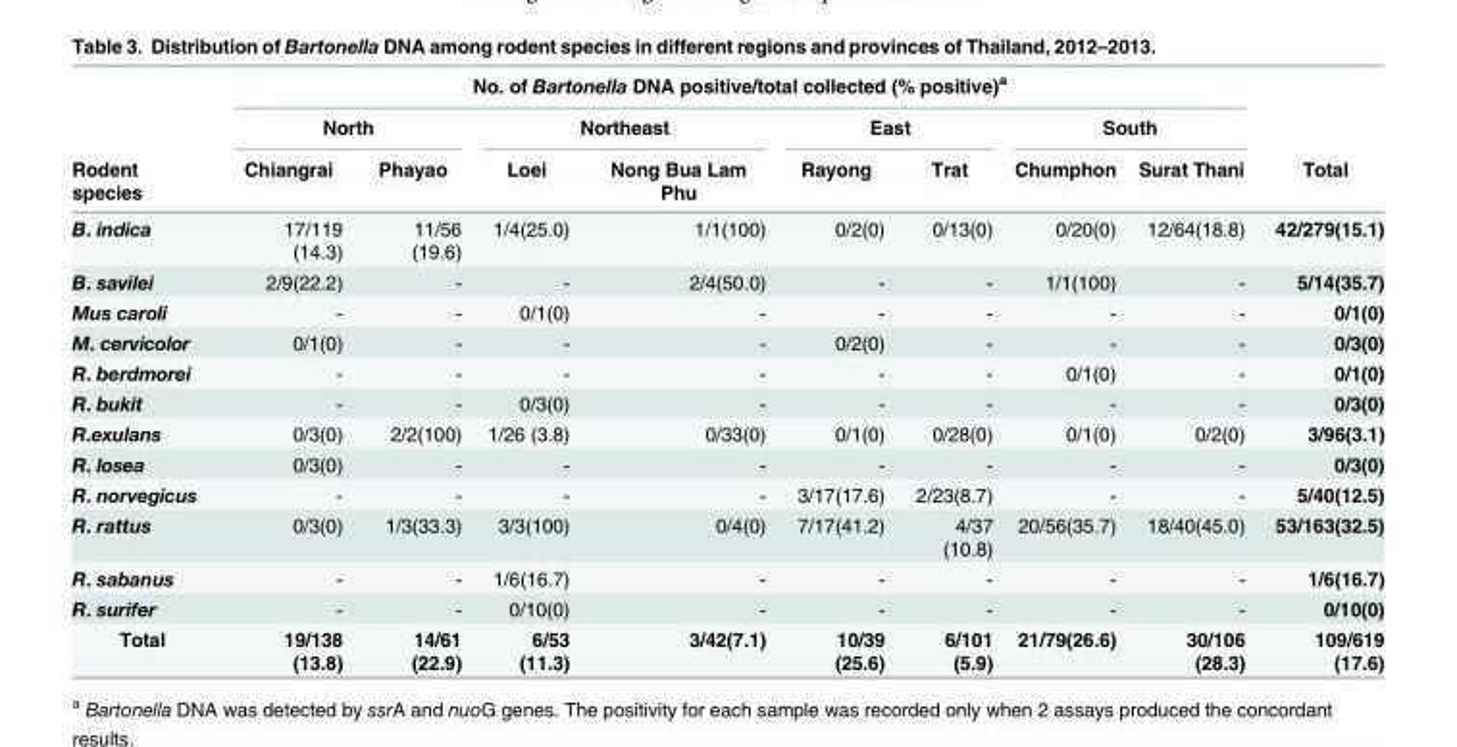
<table><thead><tr><td rowspan="3">Rodent species</td><td colspan="8">No. of Bartonella DNA positive/total collected (% positive)<sup>a</sup></td><td rowspan="3">Total</td></tr><tr><td colspan="2">North</td><td colspan="2">Northeast</td><td colspan="2">East</td><td colspan="2">South</td></tr><tr><td>Chiangrai</td><td>Phayao</td><td>Loei</td><td>Nong Bua Lam Phu</td><td>Rayong</td><td>Trat</td><td>Chumphon</td><td>Surat Thani</td></tr></thead><tbody><tr><td>B. indica</td><td>17/119 (14.3)</td><td>11/56 (19.6)</td><td>1/4(25.0)</td><td>1/1(100)</td><td>0/2(0)</td><td>0/13(0)</td><td>0/20(0)</td><td>12/64(18.8)</td><td>42/279(15.1)</td></tr><tr><td>B. savilei</td><td>2/9(22.2)</td><td>-</td><td>-</td><td>2/4(50.0)</td><td>-</td><td>-</td><td>1/1(100)</td><td>-</td><td>5/14(35.7)</td></tr><tr><td>Mus caroli</td><td>-</td><td>-</td><td>0/1(0)</td><td>-</td><td>-</td><td>-</td><td>-</td><td>-</td><td>0/1(0)</td></tr><tr><td>M. cervicolor</td><td>0/1(0)</td><td>-</td><td>-</td><td>-</td><td>0/2(0)</td><td>-</td><td>-</td><td>-</td><td>0/3(0)</td></tr><tr><td>R. berdmorei</td><td>-</td><td>-</td><td>-</td><td>-</td><td>-</td><td>-</td><td>0/1(0)</td><td>-</td><td>0/1(0)</td></tr><tr><td>R. bukit</td><td>-</td><td>-</td><td>0/3(0)</td><td>-</td><td>-</td><td>-</td><td>-</td><td>-</td><td>0/3(0)</td></tr><tr><td>R.exulans</td><td>0/3(0)</td><td>2/2(100)</td><td>1/26 (3.8)</td><td>0/33(0)</td><td>0/1(0)</td><td>0/28(0)</td><td>0/1(0)</td><td>0/2(0)</td><td>3/96(3.1)</td></tr><tr><td>R. losea</td><td>0/3(0)</td><td>-</td><td>-</td><td>-</td><td>-</td><td>-</td><td>-</td><td>-</td><td>0/3(0)</td></tr><tr><td>R. norvegicus</td><td>-</td><td>-</td><td>-</td><td>-</td><td>3/17(17.6)</td><td>2/23(8.7)</td><td>-</td><td>-</td><td>5/40(12.5)</td></tr><tr><td>R. rattus</td><td>0/3(0)</td><td>1/3(33.3)</td><td>3/3(100)</td><td>0/4(0)</td><td>7/17(41.2)</td><td>4/37 (10.8)</td><td>20/56(35.7)</td><td>18/40(45.0)</td><td>53/163(32.5)</td></tr><tr><td>R. sabanus</td><td>-</td><td>-</td><td>1/6(16.7)</td><td>-</td><td>-</td><td>-</td><td>-</td><td>-</td><td>1/6(16.7)</td></tr><tr><td>R. surifer</td><td>-</td><td>-</td><td>0/10(0)</td><td>-</td><td>-</td><td>-</td><td>-</td><td>-</td><td>0/10(0)</td></tr><tr><td>Total</td><td>19/138 (13.8)</td><td>14/61 (22.9)</td><td>6/53 (11.3)</td><td>3/42(7.1)</td><td>10/39 (25.6)</td><td>6/101 (5.9)</td><td>21/79(26.6)</td><td>30/106 (28.3)</td><td>109/619 (17.6)</td></tr></tbody></table>